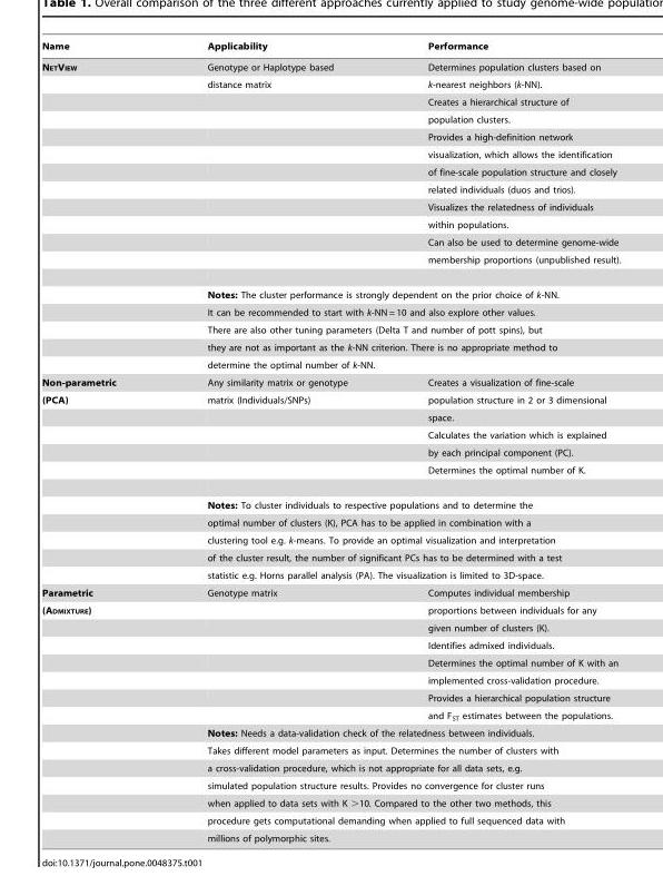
<table><thead><tr><td>Name</td><td>Applicability</td><td>Performance</td></tr></thead><tbody><tr><td rowspan="17">NETVIEW</td><td>Genotype or Haplotype based</td><td>Determines population clusters based on</td></tr><tr><td>distance matrix</td><td>k-nearest neighbors (k-NN).</td></tr><tr><td></td><td>Creates a hierarchical structure of</td></tr><tr><td></td><td>population clusters.</td></tr><tr><td></td><td>Provides a high-definition network</td></tr><tr><td></td><td>visualization, which allows the identification</td></tr><tr><td></td><td>of fine-scale population structure and closely</td></tr><tr><td></td><td>related individuals (duos and trios).</td></tr><tr><td></td><td>Visualizes the relatedness of individuals</td></tr><tr><td></td><td>within populations.</td></tr><tr><td></td><td>Can also be used to determine genome-wide</td></tr><tr><td></td><td>membership proportions (unpublished result).</td></tr><tr><td colspan="2">Notes: The cluster performance is strongly dependent on the prior choice of k-NN.</td></tr><tr><td colspan="2">It can be recommended to start with k-NN = 10 and also explore other values.</td></tr><tr><td colspan="2">There are also other tuning parameters (Delta T and number of pott spins), but</td></tr><tr><td colspan="2">they are not as important as the k-NN criterion. There is no appropriate method to</td></tr><tr><td colspan="2">determine the optimal number of k-NN.</td></tr><tr><td>Non-parametric</td><td>Any similarity matrix or genotype</td><td>Creates a visualization of fine-scale</td></tr><tr><td rowspan="10">(PCA)</td><td>matrix (Individuals/SNPs)</td><td>population structure in 2 or 3 dimensional</td></tr><tr><td></td><td>space.</td></tr><tr><td></td><td>Calculates the variation which is explained</td></tr><tr><td></td><td>by each principal component (PC).</td></tr><tr><td></td><td>Determines the optimal number of K.</td></tr><tr><td colspan="2">Notes: To cluster individuals to respective populations and to determine the</td></tr><tr><td colspan="2">optimal number of clusters (K), PCA has to be applied in combination with a</td></tr><tr><td colspan="2">clustering tool e.g. k-means. To provide an optimal visualization and interpretation</td></tr><tr><td colspan="2">of the cluster result, the number of significant PCs has to be determined with a test</td></tr><tr><td colspan="2">statistic e.g. Horns parallel analysis (PA). The visualization is limited to 3D-space.</td></tr><tr><td>Parametric</td><td>Genotype matrix</td><td>Computes individual membership</td></tr><tr><td rowspan="14">(ADMIXTURE)</td><td></td><td>proportions between individuals for any</td></tr><tr><td></td><td>given number of clusters (K).</td></tr><tr><td></td><td>Identifies admixed individuals.</td></tr><tr><td></td><td>Determines the optimal number of K with an</td></tr><tr><td></td><td>implemented cross-validation procedure.</td></tr><tr><td></td><td>Provides a hierarchical population structure</td></tr><tr><td></td><td>and F<sub>ST</sub> estimates between the populations.</td></tr><tr><td colspan="2">Notes: Needs a data-validation check of the relatedness between individuals.</td></tr><tr><td colspan="2">Takes different model parameters as input. Determines the number of clusters with</td></tr><tr><td colspan="2">a cross-validation procedure, which is not appropriate for all data sets, e.g.</td></tr><tr><td colspan="2">simulated population structure results. Provides no convergence for cluster runs</td></tr><tr><td colspan="2">when applied to data sets with K &gt;10. Compared to the other two methods, this</td></tr><tr><td colspan="2">procedure gets computational demanding when applied to full sequenced data with</td></tr><tr><td colspan="2">millions of polymorphic sites.</td></tr></tbody></table>